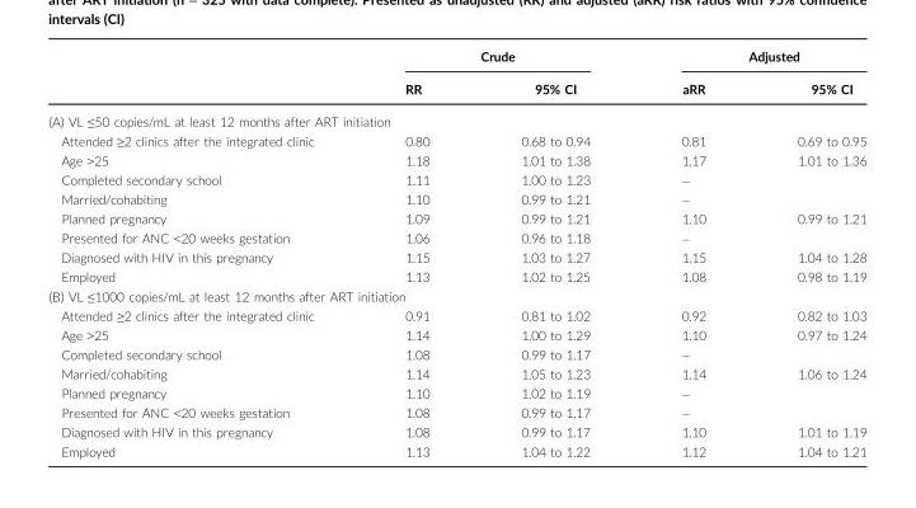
<table><thead><tr><td rowspan="2"></td><td colspan="2">Crude</td><td colspan="2">Adjusted</td></tr><tr><td>RR</td><td>95% CI</td><td>aRR</td><td>95% CI</td></tr></thead><tbody><tr><td colspan="5">(A) VL ≤50 copies/mL at least 12 months after ART initiation</td></tr><tr><td>Attended ≥2 clinics after the integrated clinic</td><td>0.80</td><td>0.68 to 0.94</td><td>0.81</td><td>0.69 to 0.95</td></tr><tr><td>Age &gt;25</td><td>1.18</td><td>1.01 to 1.38</td><td>1.17</td><td>1.01 to 1.36</td></tr><tr><td>Completed secondary school</td><td>1.11</td><td>1.00 to 1.23</td><td>–</td><td></td></tr><tr><td>Married/cohabiting</td><td>1.10</td><td>0.99 to 1.21</td><td>–</td><td></td></tr><tr><td>Planned pregnancy</td><td>1.09</td><td>0.99 to 1.21</td><td>1.10</td><td>0.99 to 1.21</td></tr><tr><td>Presented for ANC &lt;20 weeks gestation</td><td>1.06</td><td>0.96 to 1.18</td><td>–</td><td></td></tr><tr><td>Diagnosed with HIV in this pregnancy</td><td>1.15</td><td>1.03 to 1.27</td><td>1.15</td><td>1.04 to 1.28</td></tr><tr><td>Employed</td><td>1.13</td><td>1.02 to 1.25</td><td>1.08</td><td>0.98 to 1.19</td></tr><tr><td colspan="5">(B) VL ≤1000 copies/mL at least 12 months after ART initiation</td></tr><tr><td>Attended ≥2 clinics after the integrated clinic</td><td>0.91</td><td>0.81 to 1.02</td><td>0.92</td><td>0.82 to 1.03</td></tr><tr><td>Age &gt;25</td><td>1.14</td><td>1.00 to 1.29</td><td>1.10</td><td>0.97 to 1.24</td></tr><tr><td>Completed secondary school</td><td>1.08</td><td>0.99 to 1.17</td><td>–</td><td></td></tr><tr><td>Married/cohabiting</td><td>1.14</td><td>1.05 to 1.23</td><td>1.14</td><td>1.06 to 1.24</td></tr><tr><td>Planned pregnancy</td><td>1.10</td><td>1.02 to 1.19</td><td>–</td><td></td></tr><tr><td>Presented for ANC &lt;20 weeks gestation</td><td>1.08</td><td>0.99 to 1.17</td><td>–</td><td></td></tr><tr><td>Diagnosed with HIV in this pregnancy</td><td>1.08</td><td>0.99 to 1.17</td><td>1.10</td><td>1.01 to 1.19</td></tr><tr><td>Employed</td><td>1.13</td><td>1.04 to 1.22</td><td>1.12</td><td>1.04 to 1.21</td></tr></tbody></table>